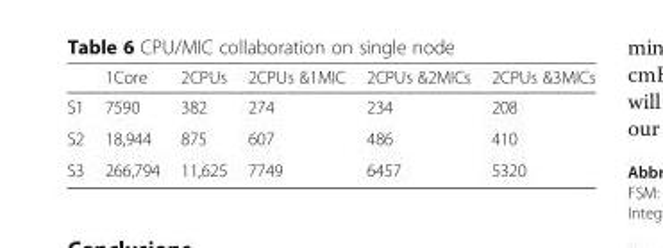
<table><thead><tr><td></td><td>1Core</td><td>2CPUs</td><td>2CPUs &amp;1MIC</td><td>2CPUs &amp;2MICs</td><td>2CPUs &amp;3MICs</td></tr></thead><tbody><tr><td>S1</td><td>7590</td><td>382</td><td>274</td><td>234</td><td>208</td></tr><tr><td>S2</td><td>18,944</td><td>875</td><td>607</td><td>486</td><td>410</td></tr><tr><td>S3</td><td>266,794</td><td>11,625</td><td>7749</td><td>6457</td><td>5320</td></tr></tbody></table>